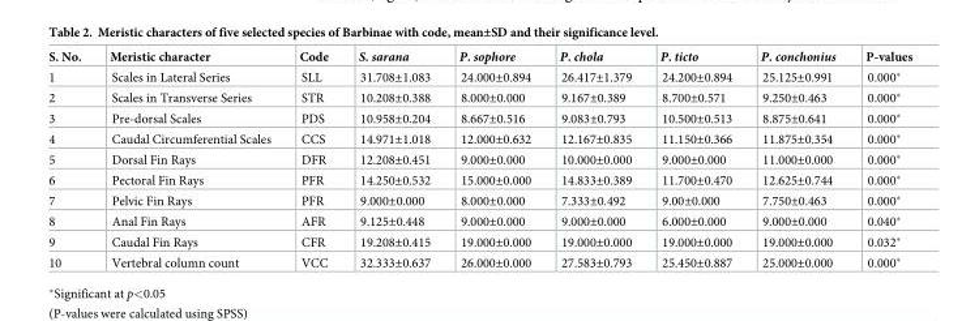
<table><thead><tr><td>S. No.</td><td>Meristic character</td><td>Code</td><td>S. sarana</td><td>P. sophore</td><td>P. chola</td><td>P. ticto</td><td>P. conchonius</td><td>P-values</td></tr></thead><tbody><tr><td>1</td><td>Scales in Lateral Series</td><td>SLL</td><td>31.708±1.083</td><td>24.000±0.894</td><td>26.417±1.379</td><td>24.200±0.894</td><td>25.125±0.991</td><td>0.000*</td></tr><tr><td>2</td><td>Scales in Transverse Series</td><td>STR</td><td>10.208±0.388</td><td>8.000±0.000</td><td>9.167±0.389</td><td>8.700±0.571</td><td>9.250±0.463</td><td>0.000*</td></tr><tr><td>3</td><td>Pre-dorsal Scales</td><td>PDS</td><td>10.958±0.204</td><td>8.667±0.516</td><td>9.083±0.793</td><td>10.500±0.513</td><td>8.875±0.641</td><td>0.000*</td></tr><tr><td>4</td><td>Caudal Circumferential Scales</td><td>CCS</td><td>14.971±1.018</td><td>12.000±0.632</td><td>12.167±0.835</td><td>11.150±0.366</td><td>11.875±0.354</td><td>0.000*</td></tr><tr><td>5</td><td>Dorsal Fin Rays</td><td>DFR</td><td>12.208±0.451</td><td>9.000±0.000</td><td>10.000±0.000</td><td>9.000±0.000</td><td>11.000±0.000</td><td>0.000*</td></tr><tr><td>6</td><td>Pectoral Fin Rays</td><td>PFR</td><td>14.250±0.532</td><td>15.000±0.000</td><td>14.833±0.389</td><td>11.700±0.470</td><td>12.625±0.744</td><td>0.000*</td></tr><tr><td>7</td><td>Pelvic Fin Rays</td><td>PFR</td><td>9.000±0.000</td><td>8.000±0.000</td><td>7.333±0.492</td><td>9.00±0.000</td><td>7.750±0.463</td><td>0.000*</td></tr><tr><td>8</td><td>Anal Fin Rays</td><td>AFR</td><td>9.125±0.448</td><td>9.000±0.000</td><td>9.000±0.000</td><td>6.000±0.000</td><td>9.000±0.000</td><td>0.040*</td></tr><tr><td>9</td><td>Caudal Fin Rays</td><td>CFR</td><td>19.208±0.415</td><td>19.000±0.000</td><td>19.000±0.000</td><td>19.000±0.000</td><td>19.000±0.000</td><td>0.032*</td></tr><tr><td>10</td><td>Vertebral column count</td><td>VCC</td><td>32.333±0.637</td><td>26.000±0.000</td><td>27.583±0.793</td><td>25.450±0.887</td><td>25.000±0.000</td><td>0.000*</td></tr></tbody></table>